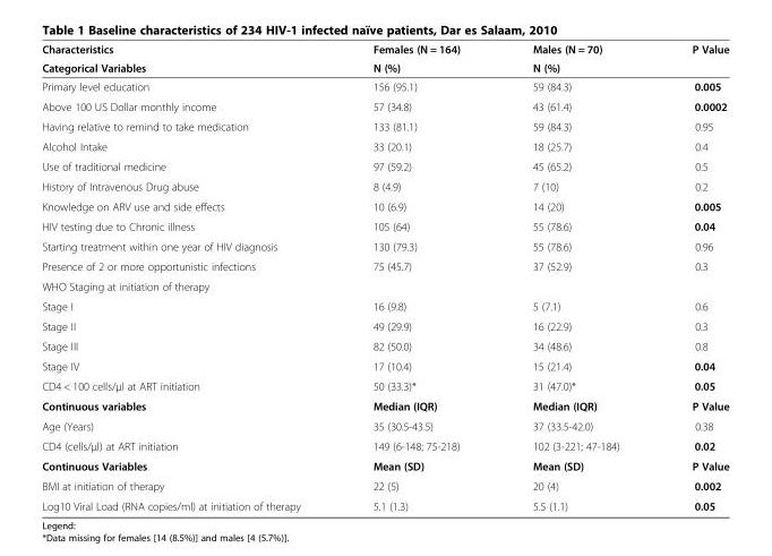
<table><thead><tr><td rowspan="2">Characteristics Categorical Variables</td><td rowspan="2">Females (N = 164) N (%)</td><td rowspan="2">Males (N = 70) N (%)</td><td rowspan="2">P Value</td></tr><tr></tr></thead><tbody><tr><td>Primary level education</td><td>156 (95.1)</td><td>59 (84.3)</td><td>0.005</td></tr><tr><td>Above 100 US Dollar monthly income</td><td>57 (34.8)</td><td>43 (61.4)</td><td>0.0002</td></tr><tr><td>Having relative to remind to take medication</td><td>133 (81.1)</td><td>59 (84.3)</td><td>0.95</td></tr><tr><td>Alcohol Intake</td><td>33 (20.1)</td><td>18 (25.7)</td><td>0.4</td></tr><tr><td>Use of traditional medicine</td><td>97 (59.2)</td><td>45 (65.2)</td><td>0.5</td></tr><tr><td>History of Intravenous Drug abuse</td><td>8 (4.9)</td><td>7 (10)</td><td>0.2</td></tr><tr><td>Knowledge on ARV use and side effects</td><td>10 (6.9)</td><td>14 (20)</td><td>0.005</td></tr><tr><td>HIV testing due to Chronic illness</td><td>105 (64)</td><td>55 (78.6)</td><td>0.04</td></tr><tr><td>Starting treatment within one year of HIV diagnosis</td><td>130 (79.3)</td><td>55 (78.6)</td><td>0.96</td></tr><tr><td>Presence of 2 or more opportunistic infections</td><td>75 (45.7)</td><td>37 (52.9)</td><td>0.3</td></tr><tr><td colspan="4">WHO Staging at initiation of therapy</td></tr><tr><td>Stage I</td><td>16 (9.8)</td><td>5 (7.1)</td><td>0.6</td></tr><tr><td>Stage II</td><td>49 (29.9)</td><td>16 (22.9)</td><td>0.3</td></tr><tr><td>Stage III</td><td>82 (50.0)</td><td>34 (48.6)</td><td>0.8</td></tr><tr><td>Stage IV</td><td>17 (10.4)</td><td>15 (21.4)</td><td>0.04</td></tr><tr><td>CD4 &lt; 100 cells/μl at ART initiation</td><td>50 (33.3)*</td><td>31 (47.0)*</td><td>0.05</td></tr><tr><td>Continuous variables</td><td>Median (IQR)</td><td>Median (IQR)</td><td>P Value</td></tr><tr><td>Age (Years)</td><td>35 (30.5-43.5)</td><td>37 (33.5-42.0)</td><td>0.38</td></tr><tr><td>CD4 (cells/μl) at ART initiation</td><td>149 (6-148; 75-218)</td><td>102 (3-221; 47-184)</td><td>0.02</td></tr><tr><td>Continuous Variables</td><td>Mean (SD)</td><td>Mean (SD)</td><td>P Value</td></tr><tr><td>BMI at initiation of therapy</td><td>22 (5)</td><td>20 (4)</td><td>0.002</td></tr><tr><td>Log10 Viral Load (RNA copies/ml) at initiation of therapy</td><td>5.1 (1.3)</td><td>5.5 (1.1)</td><td>0.05</td></tr></tbody></table>